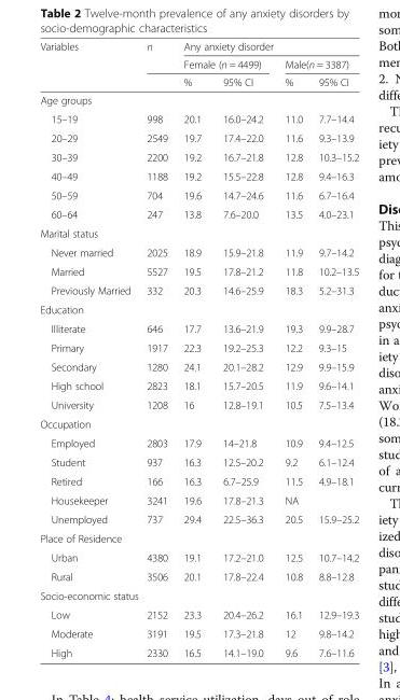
<table><thead><tr><td rowspan="3">Variables</td><td rowspan="3">n</td><td colspan="4">Any anxiety disorder</td></tr><tr><td colspan="2">Female (n = 4499)</td><td colspan="2">Male(n = 3387)</td></tr><tr><td>%</td><td>95% CI</td><td>%</td><td>95% CI</td></tr></thead><tbody><tr><td colspan="6">Age groups</td></tr><tr><td>15–19</td><td>998</td><td>20.1</td><td>16.0–24.2</td><td>11.0</td><td>7.7–14.4</td></tr><tr><td>20–29</td><td>2549</td><td>19.7</td><td>17.4–22.0</td><td>11.6</td><td>9.3–13.9</td></tr><tr><td>30–39</td><td>2200</td><td>19.2</td><td>16.7–21.8</td><td>12.8</td><td>10.3–15.2</td></tr><tr><td>40–49</td><td>1188</td><td>19.2</td><td>15.5–22.8</td><td>12.8</td><td>9.4–16.3</td></tr><tr><td>50–59</td><td>704</td><td>19.6</td><td>14.7–24.6</td><td>11.6</td><td>6.7–16.4</td></tr><tr><td>60–64</td><td>247</td><td>13.8</td><td>7.6–20.0</td><td>13.5</td><td>4.0–23.1</td></tr><tr><td colspan="6">Marital status</td></tr><tr><td>Never married</td><td>2025</td><td>18.9</td><td>15.9–21.8</td><td>11.9</td><td>9.7–14.2</td></tr><tr><td>Married</td><td>5527</td><td>19.5</td><td>17.8–21.2</td><td>11.8</td><td>10.2–13.5</td></tr><tr><td>Previously Married</td><td>332</td><td>20.3</td><td>14.6–25.9</td><td>18.3</td><td>5.2–31.3</td></tr><tr><td colspan="6">Education</td></tr><tr><td>Illiterate</td><td>646</td><td>17.7</td><td>13.6–21.9</td><td>19.3</td><td>9.9–28.7</td></tr><tr><td>Primary</td><td>1917</td><td>22.3</td><td>19.2–25.3</td><td>12.2</td><td>9.3–15</td></tr><tr><td>Secondary</td><td>1280</td><td>24.1</td><td>20.1–28.2</td><td>12.9</td><td>9.9–15.9</td></tr><tr><td>High school</td><td>2823</td><td>18.1</td><td>15.7–20.5</td><td>11.9</td><td>9.6–14.1</td></tr><tr><td>University</td><td>1208</td><td>16</td><td>12.8–19.1</td><td>10.5</td><td>7.5–13.4</td></tr><tr><td colspan="6">Occupation</td></tr><tr><td>Employed</td><td>2803</td><td>17.9</td><td>14–21.8</td><td>10.9</td><td>9.4–12.5</td></tr><tr><td>Student</td><td>937</td><td>16.3</td><td>12.5–20.2</td><td>9.2</td><td>6.1–12.4</td></tr><tr><td>Retired</td><td>166</td><td>16.3</td><td>6.7–25.9</td><td>11.5</td><td>4.9–18.1</td></tr><tr><td>Housekeeper</td><td>3241</td><td>19.6</td><td>17.8–21.3</td><td>NA</td><td></td></tr><tr><td>Unemployed</td><td>737</td><td>29.4</td><td>22.5–36.3</td><td>20.5</td><td>15.9–25.2</td></tr><tr><td colspan="6">Place of Residence</td></tr><tr><td>Urban</td><td>4380</td><td>19.1</td><td>17.2–21.0</td><td>12.5</td><td>10.7–14.2</td></tr><tr><td>Rural</td><td>3506</td><td>20.1</td><td>17.8–22.4</td><td>10.8</td><td>8.8–12.8</td></tr><tr><td colspan="6">Socio-economic status</td></tr><tr><td>Low</td><td>2152</td><td>23.3</td><td>20.4–26.2</td><td>16.1</td><td>12.9–19.3</td></tr><tr><td>Moderate</td><td>3191</td><td>19.5</td><td>17.3–21.8</td><td>12</td><td>9.8–14.2</td></tr><tr><td>High</td><td>2330</td><td>16.5</td><td>14.1–19.0</td><td>9.6</td><td>7.6–11.6</td></tr></tbody></table>